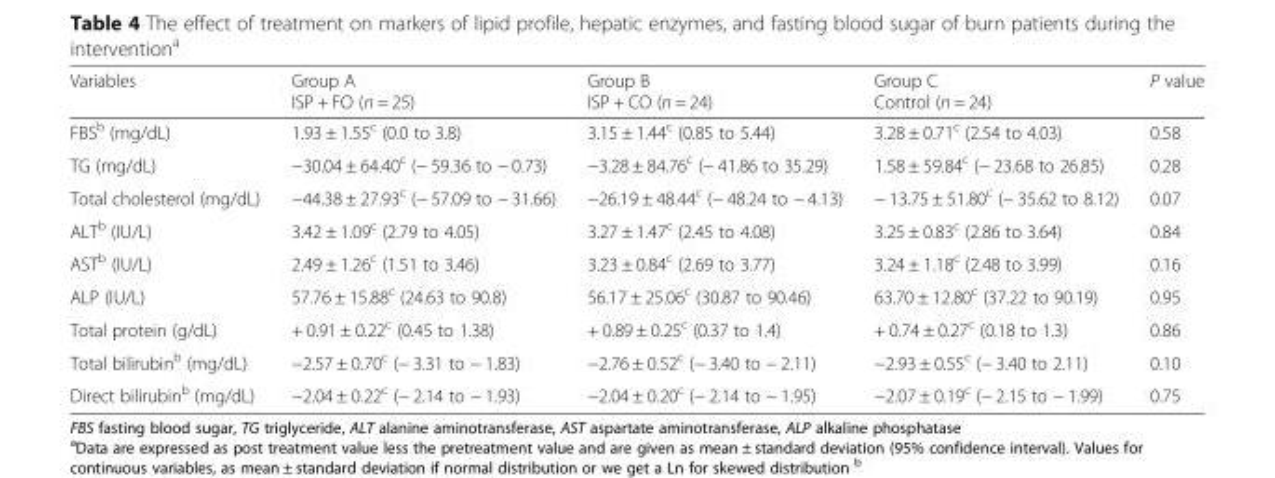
<table><thead><tr><td>Variables</td><td>Group A ISP + FO (n = 25)</td><td>Group B ISP + CO (n = 24)</td><td>Group C Control (n = 24)</td><td>P value</td></tr></thead><tbody><tr><td>FBS<sup>b</sup> (mg/dL)</td><td>1.93 ± 1.55<sup>c</sup> (0.0 to 3.8)</td><td>3.15 ± 1.44<sup>c</sup> (0.85 to 5.44)</td><td>3.28 ± 0.71<sup>c</sup> (2.54 to 4.03)</td><td>0.58</td></tr><tr><td>TG (mg/dL)</td><td>−30.04 ± 64.40<sup>c</sup> (− 59.36 to − 0.73)</td><td>−3.28 ± 84.76<sup>c</sup> (− 41.86 to 35.29)</td><td>1.58 ± 59.84<sup>c</sup> (− 23.68 to 26.85)</td><td>0.28</td></tr><tr><td>Total cholesterol (mg/dL)</td><td>−44.38 ± 27.93<sup>c</sup> (− 57.09 to − 31.66)</td><td>−26.19 ± 48.44<sup>c</sup> (− 48.24 to − 4.13)</td><td>− 13.75 ± 51.80<sup>c</sup> (− 35.62 to 8.12)</td><td>0.07</td></tr><tr><td>ALT<sup>b</sup> (IU/L)</td><td>3.42 ± 1.09<sup>c</sup> (2.79 to 4.05)</td><td>3.27 ± 1.47<sup>c</sup> (2.45 to 4.08)</td><td>3.25 ± 0.83<sup>c</sup> (2.86 to 3.64)</td><td>0.84</td></tr><tr><td>AST<sup>b</sup> (IU/L)</td><td>2.49 ± 1.26<sup>c</sup> (1.51 to 3.46)</td><td>3.23 ± 0.84<sup>c</sup> (2.69 to 3.77)</td><td>3.24 ± 1.18<sup>c</sup> (2.48 to 3.99)</td><td>0.16</td></tr><tr><td>ALP (IU/L)</td><td>57.76 ± 15.88<sup>c</sup> (24.63 to 90.8)</td><td>56.17 ± 25.06<sup>c</sup> (30.87 to 90.46)</td><td>63.70 ± 12.80<sup>c</sup> (37.22 to 90.19)</td><td>0.95</td></tr><tr><td>Total protein (g/dL)</td><td>+ 0.91 ± 0.22<sup>c</sup> (0.45 to 1.38)</td><td>+ 0.89 ± 0.25<sup>c</sup> (0.37 to 1.4)</td><td>+ 0.74 ± 0.27<sup>c</sup> (0.18 to 1.3)</td><td>0.86</td></tr><tr><td>Total bilirubin<sup>b</sup> (mg/dL)</td><td>−2.57 ± 0.70<sup>c</sup> (− 3.31 to − 1.83)</td><td>−2.76 ± 0.52<sup>c</sup> (− 3.40 to − 2.11)</td><td>−2.93 ± 0.55<sup>c</sup> (− 3.40 to 2.11)</td><td>0.10</td></tr><tr><td>Direct bilirubin<sup>b</sup> (mg/dL)</td><td>−2.04 ± 0.22<sup>c</sup> (− 2.14 to − 1.93)</td><td>−2.04 ± 0.20<sup>c</sup> (− 2.14 to − 1.95)</td><td>−2.07 ± 0.19<sup>c</sup> (− 2.15 to − 1.99)</td><td>0.75</td></tr></tbody></table>